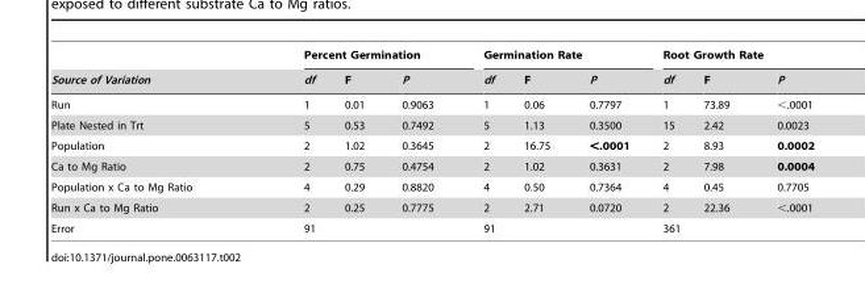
<table><thead><tr><td rowspan="2">Source of Variation</td><td colspan="3">Percent Germination</td><td colspan="3">Germination Rate</td><td colspan="3">Root Growth Rate</td></tr><tr><td>df</td><td>F</td><td>P</td><td>df</td><td>F</td><td>P</td><td>df</td><td>F</td><td>P</td></tr></thead><tbody><tr><td>Run</td><td>1</td><td>0.01</td><td>0.9063</td><td>1</td><td>0.06</td><td>0.7797</td><td>1</td><td>73.89</td><td>&lt;.0001</td></tr><tr><td>Plate Nested in Trt</td><td>5</td><td>0.53</td><td>0.7492</td><td>5</td><td>1.13</td><td>0.3500</td><td>15</td><td>2.42</td><td>0.0023</td></tr><tr><td>Population</td><td>2</td><td>1.02</td><td>0.3645</td><td>2</td><td>16.75</td><td>&lt;.0001</td><td>2</td><td>8.93</td><td>0.0002</td></tr><tr><td>Ca to Mg Ratio</td><td>2</td><td>0.75</td><td>0.4754</td><td>2</td><td>1.02</td><td>0.3631</td><td>2</td><td>7.98</td><td>0.0004</td></tr><tr><td>Population x Ca to Mg Ratio</td><td>4</td><td>0.29</td><td>0.8820</td><td>4</td><td>0.50</td><td>0.7364</td><td>4</td><td>0.45</td><td>0.7705</td></tr><tr><td>Run x Ca to Mg Ratio</td><td>2</td><td>0.25</td><td>0.7775</td><td>2</td><td>2.71</td><td>0.0720</td><td>2</td><td>22.36</td><td>&lt;.0001</td></tr><tr><td>Error</td><td>91</td><td></td><td></td><td>91</td><td></td><td></td><td>361</td><td></td><td></td></tr></tbody></table>